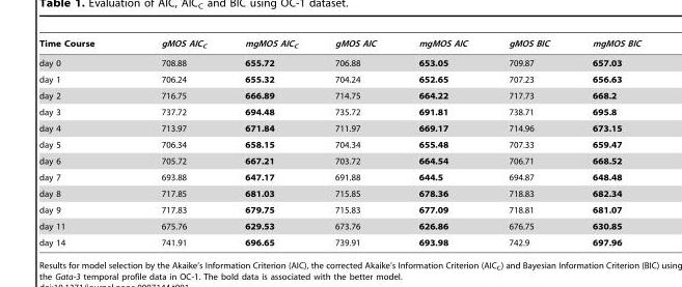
<table><thead><tr><td>Time Course</td><td>gMOS AIC<sub>C</sub></td><td>mgMOS AIC<sub>C</sub></td><td>gMOS AIC</td><td>mgMOS AIC</td><td>gMOS BIC</td><td>mgMOS BIC</td></tr></thead><tbody><tr><td>day 0</td><td>708.88</td><td>655.72</td><td>706.88</td><td>653.05</td><td>709.87</td><td>657.03</td></tr><tr><td>day 1</td><td>706.24</td><td>655.32</td><td>704.24</td><td>652.65</td><td>707.23</td><td>656.63</td></tr><tr><td>day 2</td><td>716.75</td><td>666.89</td><td>714.75</td><td>664.22</td><td>717.73</td><td>668.2</td></tr><tr><td>day 3</td><td>737.72</td><td>694.48</td><td>735.72</td><td>691.81</td><td>738.71</td><td>695.8</td></tr><tr><td>day 4</td><td>713.97</td><td>671.84</td><td>711.97</td><td>669.17</td><td>714.96</td><td>673.15</td></tr><tr><td>day 5</td><td>706.34</td><td>658.15</td><td>704.34</td><td>655.48</td><td>707.33</td><td>659.47</td></tr><tr><td>day 6</td><td>705.72</td><td>667.21</td><td>703.72</td><td>664.54</td><td>706.71</td><td>668.52</td></tr><tr><td>day 7</td><td>693.88</td><td>647.17</td><td>691.88</td><td>644.5</td><td>694.87</td><td>648.48</td></tr><tr><td>day 8</td><td>717.85</td><td>681.03</td><td>715.85</td><td>678.36</td><td>718.83</td><td>682.34</td></tr><tr><td>day 9</td><td>717.83</td><td>679.75</td><td>715.83</td><td>677.09</td><td>718.81</td><td>681.07</td></tr><tr><td>day 11</td><td>675.76</td><td>629.53</td><td>673.76</td><td>626.86</td><td>676.75</td><td>630.85</td></tr><tr><td>day 14</td><td>741.91</td><td>696.65</td><td>739.91</td><td>693.98</td><td>742.9</td><td>697.96</td></tr></tbody></table>